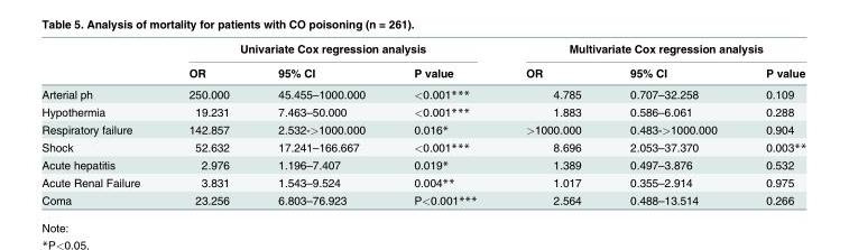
<table><thead><tr><td rowspan="2"></td><td colspan="3">Univariate Cox regression analysis</td><td colspan="3">Multivariate Cox regression analysis</td></tr><tr><td>OR</td><td>95% CI</td><td>P value</td><td>OR</td><td>95% CI</td><td>P value</td></tr></thead><tbody><tr><td>Arterial ph</td><td>250.000</td><td>45.455–1000.000</td><td>&lt;0.001***</td><td>4.785</td><td>0.707–32.258</td><td>0.109</td></tr><tr><td>Hypothermia</td><td>19.231</td><td>7.463–50.000</td><td>&lt;0.001***</td><td>1.883</td><td>0.586–6.061</td><td>0.288</td></tr><tr><td>Respiratory failure</td><td>142.857</td><td>2.532-&gt;1000.000</td><td>0.016*</td><td>&gt;1000.000</td><td>0.483-&gt;1000.000</td><td>0.904</td></tr><tr><td>Shock</td><td>52.632</td><td>17.241–166.667</td><td>&lt;0.001***</td><td>8.696</td><td>2.053–37.370</td><td>0.003**</td></tr><tr><td>Acute hepatitis</td><td>2.976</td><td>1.196–7.407</td><td>0.019*</td><td>1.389</td><td>0.497–3.876</td><td>0.532</td></tr><tr><td>Acute Renal Failure</td><td>3.831</td><td>1.543–9.524</td><td>0.004**</td><td>1.017</td><td>0.355–2.914</td><td>0.975</td></tr><tr><td>Coma</td><td>23.256</td><td>6.803–76.923</td><td>P&lt;0.001***</td><td>2.564</td><td>0.488–13.514</td><td>0.266</td></tr></tbody></table>